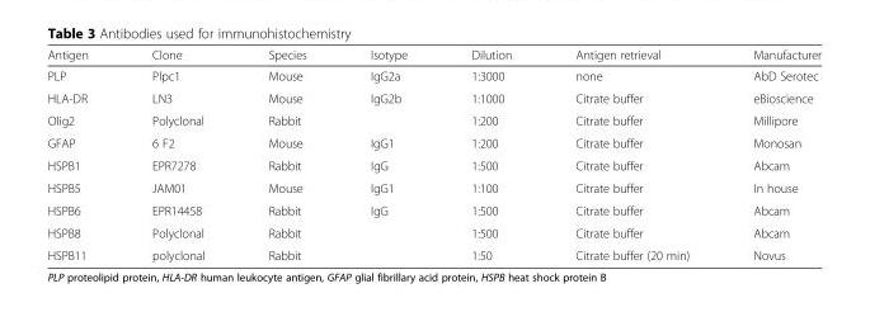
<table><thead><tr><td>Antigen</td><td>Clone</td><td>Species</td><td>Isotype</td><td>Dilution</td><td>Antigen retrieval</td><td>Manufacturer</td></tr></thead><tbody><tr><td>PLP</td><td>Plpc1</td><td>Mouse</td><td>IgG2a</td><td>1:3000</td><td>none</td><td>AbD Serotec</td></tr><tr><td>HLA-DR</td><td>LN3</td><td>Mouse</td><td>IgG2b</td><td>1:1000</td><td>Citrate buffer</td><td>eBioscience</td></tr><tr><td>Olig2</td><td>Polyclonal</td><td>Rabbit</td><td></td><td>1:200</td><td>Citrate buffer</td><td>Millipore</td></tr><tr><td>GFAP</td><td>6 F2</td><td>Mouse</td><td>IgG1</td><td>1:200</td><td>Citrate buffer</td><td>Monosan</td></tr><tr><td>HSPB1</td><td>EPR7278</td><td>Rabbit</td><td>IgG</td><td>1:500</td><td>Citrate buffer</td><td>Abcam</td></tr><tr><td>HSPB5</td><td>JAM01</td><td>Mouse</td><td>IgG1</td><td>1:100</td><td>Citrate buffer</td><td>In house</td></tr><tr><td>HSPB6</td><td>EPR14458</td><td>Rabbit</td><td>IgG</td><td>1:500</td><td>Citrate buffer</td><td>Abcam</td></tr><tr><td>HSPB8</td><td>Polyclonal</td><td>Rabbit</td><td></td><td>1:500</td><td>Citrate buffer</td><td>Abcam</td></tr><tr><td>HSPB11</td><td>polyclonal</td><td>Rabbit</td><td></td><td>1:50</td><td>Citrate buffer (20 min)</td><td>Novus</td></tr></tbody></table>